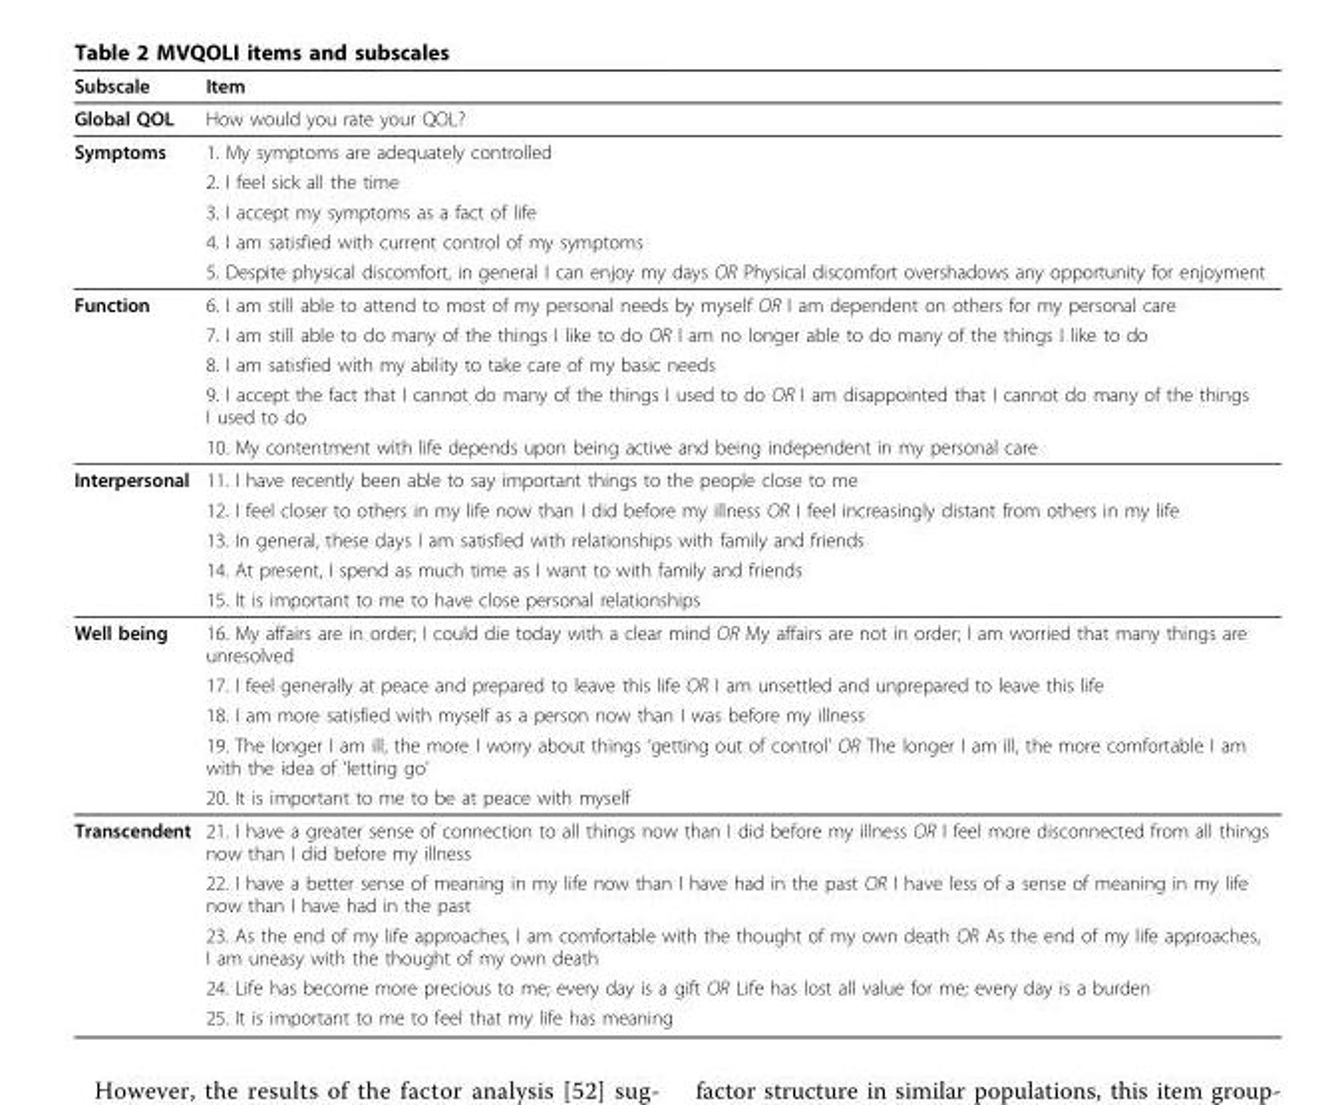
<table><thead><tr><td>Subscale</td><td>Item</td></tr></thead><tbody><tr><td>Global QOL</td><td>How would you rate your QOL?</td></tr><tr><td rowspan="5">Symptoms</td><td>1. My symptoms are adequately controlled</td></tr><tr><td>2. I feel sick all the time</td></tr><tr><td>3. I accept my symptoms as a fact of life</td></tr><tr><td>4. I am satisfied with current control of my symptoms</td></tr><tr><td>5. Despite physical discomfort, in general I can enjoy my days OR Physical discomfort overshadows any opportunity for enjoyment</td></tr><tr><td rowspan="5">Function</td><td>6. I am still able to attend to most of my personal needs by myself OR I am dependent on others for my personal care</td></tr><tr><td>7. I am still able to do many of the things I like to do OR I am no longer able to do many of the things I like to do</td></tr><tr><td>8. I am satisfied with my ability to take care of my basic needs</td></tr><tr><td>9. I accept the fact that I cannot do many of the things I used to do OR I am disappointed that I cannot do many of the things I used to do</td></tr><tr><td>10. My contentment with life depends upon being active and being independent in my personal care</td></tr><tr><td rowspan="5">Interpersonal</td><td>11. I have recently been able to say important things to the people close to me</td></tr><tr><td>12. I feel closer to others in my life now than I did before my illness OR I feel increasingly distant from others in my life</td></tr><tr><td>13. In general, these days I am satisfied with relationships with family and friends</td></tr><tr><td>14. At present, I spend as much time as I want to with family and friends</td></tr><tr><td>15. It is important to me to have close personal relationships</td></tr><tr><td rowspan="5">Well being</td><td>16. My affairs are in order; I could die today with a clear mind OR My affairs are not in order; I am worried that many things are unresolved</td></tr><tr><td>17. I feel generally at peace and prepared to leave this life OR I am unsettled and unprepared to leave this life</td></tr><tr><td>18. I am more satisfied with myself as a person now than I was before my illness</td></tr><tr><td>19. The longer I am ill, the more I worry about things ‘getting out of control’ OR The longer I am ill, the more comfortable I am with the idea of ‘letting go’</td></tr><tr><td>20. It is important to me to be at peace with myself</td></tr><tr><td rowspan="5">Transcendent</td><td>21. I have a greater sense of connection to all things now than I did before my illness OR I feel more disconnected from all things now than I did before my illness</td></tr><tr><td>22. I have a better sense of meaning in my life now than I have had in the past OR I have less of a sense of meaning in my life now than I have had in the past</td></tr><tr><td>23. As the end of my life approaches, I am comfortable with the thought of my own death OR As the end of my life approaches, I am uneasy with the thought of my own death</td></tr><tr><td>24. Life has become more precious to me; every day is a gift OR Life has lost all value for me; every day is a burden</td></tr><tr><td>25. It is important to me to feel that my life has meaning</td></tr></tbody></table>